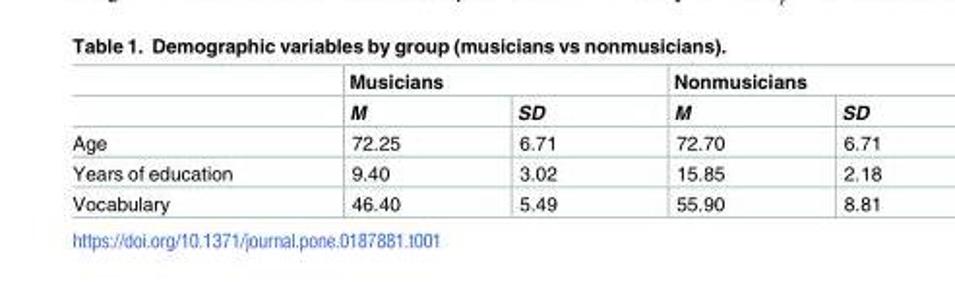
<table><thead><tr><td rowspan="2"></td><td colspan="2">Musicians</td><td colspan="2">Nonmusicians</td></tr><tr><td>M</td><td>SD</td><td>M</td><td>SD</td></tr></thead><tbody><tr><td>Age</td><td>72.25</td><td>6.71</td><td>72.70</td><td>6.71</td></tr><tr><td>Years of education</td><td>9.40</td><td>3.02</td><td>15.85</td><td>2.18</td></tr><tr><td>Vocabulary</td><td>46.40</td><td>5.49</td><td>55.90</td><td>8.81</td></tr></tbody></table>